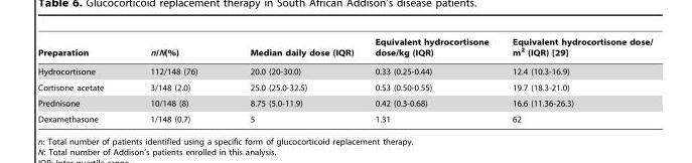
<table><thead><tr><td>Preparation</td><td>n/N(%)</td><td>Median daily dose (IQR)</td><td>Equivalent hydrocortisone dose/kg (IQR)</td><td>Equivalent hydrocortisone dose/ m<sup>2</sup> (IQR) [29]</td></tr></thead><tbody><tr><td>Hydrocortisone</td><td>112/148 (76)</td><td>20.0 (20-30.0)</td><td>0.33 (0.25-0.44)</td><td>12.4 (10.3-16.9)</td></tr><tr><td>Cortisone acetate</td><td>3/148 (2.0)</td><td>25.0 (25.0-32.5)</td><td>0.53 (0.50-0.55)</td><td>19.7 (18.3-21.0)</td></tr><tr><td>Prednisone</td><td>10/148 (8)</td><td>8.75 (5.0-11.9)</td><td>0.42 (0.3-0.68)</td><td>16.6 (11.36-26.3)</td></tr><tr><td>Dexamethasone</td><td>1/148 (0.7)</td><td>5</td><td>1.31</td><td>62</td></tr></tbody></table>